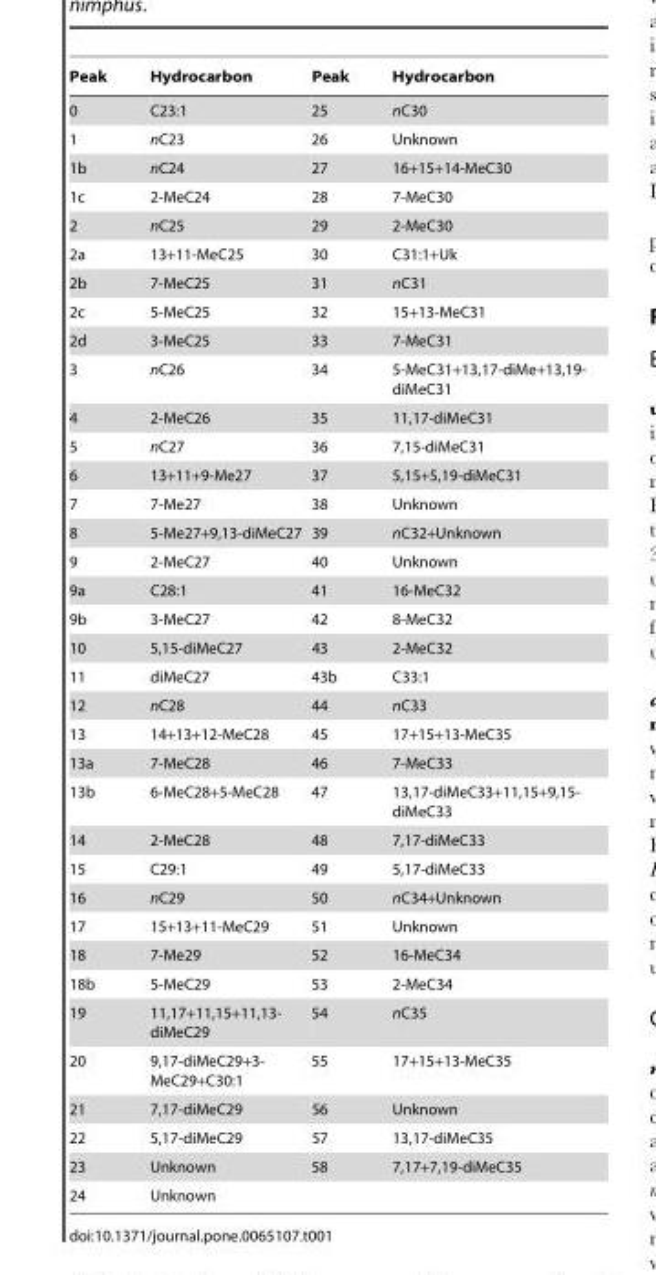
<table><thead><tr><td>Peak</td><td>Hydrocarbon</td><td>Peak</td><td>Hydrocarbon</td></tr></thead><tbody><tr><td>0</td><td>C23:1</td><td>25</td><td>nC30</td></tr><tr><td>1</td><td>nC23</td><td>26</td><td>Unknown</td></tr><tr><td>1b</td><td>nC24</td><td>27</td><td>16+15+14-MeC30</td></tr><tr><td>1c</td><td>2-MeC24</td><td>28</td><td>7-MeC30</td></tr><tr><td>2</td><td>nC25</td><td>29</td><td>2-MeC30</td></tr><tr><td>2a</td><td>13+11-MeC25</td><td>30</td><td>C31:1+Uk</td></tr><tr><td>2b</td><td>7-MeC25</td><td>31</td><td>nC31</td></tr><tr><td>2c</td><td>5-MeC25</td><td>32</td><td>15+13-MeC31</td></tr><tr><td>2d</td><td>3-MeC25</td><td>33</td><td>7-MeC31</td></tr><tr><td>3</td><td>nC26</td><td>34</td><td>5-MeC31+13,17-diMe+13,19- diMeC31</td></tr><tr><td>4</td><td>2-MeC26</td><td>35</td><td>11,17-diMeC31</td></tr><tr><td>5</td><td>nC27</td><td>36</td><td>7,15-diMeC31</td></tr><tr><td>6</td><td>13+11+9-Me27</td><td>37</td><td>5,15+5,19-diMeC31</td></tr><tr><td>7</td><td>7-Me27</td><td>38</td><td>Unknown</td></tr><tr><td>8</td><td>5-Me27+9,13-diMeC27</td><td>39</td><td>nC32+Unknown</td></tr><tr><td>9</td><td>2-MeC27</td><td>40</td><td>Unknown</td></tr><tr><td>9a</td><td>C28:1</td><td>41</td><td>16-MeC32</td></tr><tr><td>9b</td><td>3-MeC27</td><td>42</td><td>8-MeC32</td></tr><tr><td>10</td><td>5,15-diMeC27</td><td>43</td><td>2-MeC32</td></tr><tr><td>11</td><td>diMeC27</td><td>43b</td><td>C33:1</td></tr><tr><td>12</td><td>nC28</td><td>44</td><td>nC33</td></tr><tr><td>13</td><td>14+13+12-MeC28</td><td>45</td><td>17+15+13-MeC35</td></tr><tr><td>13a</td><td>7-MeC28</td><td>46</td><td>7-MeC33</td></tr><tr><td>13b</td><td>6-MeC28+5-MeC28</td><td>47</td><td>13,17-diMeC33+11,15+9,15- diMeC33</td></tr><tr><td>14</td><td>2-MeC28</td><td>48</td><td>7,17-diMeC33</td></tr><tr><td>15</td><td>C29:1</td><td>49</td><td>5,17-diMeC33</td></tr><tr><td>16</td><td>nC29</td><td>50</td><td>nC34+Unknown</td></tr><tr><td>17</td><td>15+13+11-MeC29</td><td>51</td><td>Unknown</td></tr><tr><td>18</td><td>7-Me29</td><td>52</td><td>16-MeC34</td></tr><tr><td>18b</td><td>5-MeC29</td><td>53</td><td>2-MeC34</td></tr><tr><td>19</td><td>11,17+11,15+11,13- diMeC29</td><td>54</td><td>nC35</td></tr><tr><td>20</td><td>9,17-diMeC29+3- MeC29+C30:1</td><td>55</td><td>17+15+13-MeC35</td></tr><tr><td>21</td><td>7,17-diMeC29</td><td>56</td><td>Unknown</td></tr><tr><td>22</td><td>5,17-diMeC29</td><td>57</td><td>13,17-diMeC35</td></tr><tr><td>23</td><td>Unknown</td><td>58</td><td>7,17+7,19-diMeC35</td></tr><tr><td>24</td><td>Unknown</td><td></td><td></td></tr></tbody></table>